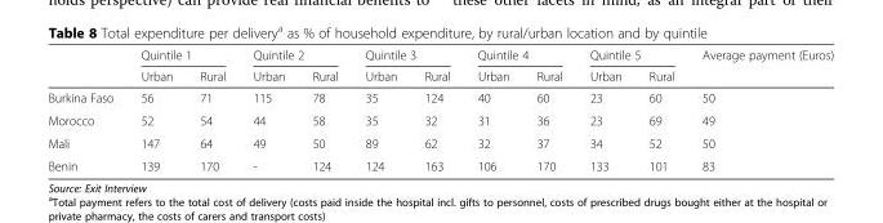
<table><thead><tr><td rowspan="2"></td><td colspan="2">Quintile 1</td><td colspan="2">Quintile 2</td><td colspan="2">Quintile 3</td><td colspan="2">Quintile 4</td><td colspan="2">Quintile 5</td><td rowspan="2">Average payment (Euros)</td></tr><tr><td>Urban</td><td>Rural</td><td>Urban</td><td>Rural</td><td>Urban</td><td>Rural</td><td>Urban</td><td>Rural</td><td>Urban</td><td>Rural</td></tr></thead><tbody><tr><td>Burkina Faso</td><td>56</td><td>71</td><td>115</td><td>78</td><td>35</td><td>124</td><td>40</td><td>60</td><td>23</td><td>60</td><td>50</td></tr><tr><td>Morocco</td><td>52</td><td>54</td><td>44</td><td>58</td><td>35</td><td>32</td><td>31</td><td>36</td><td>23</td><td>69</td><td>49</td></tr><tr><td>Mali</td><td>147</td><td>64</td><td>49</td><td>50</td><td>89</td><td>62</td><td>32</td><td>37</td><td>34</td><td>52</td><td>50</td></tr><tr><td>Benin</td><td>139</td><td>170</td><td>-</td><td>124</td><td>124</td><td>163</td><td>106</td><td>170</td><td>133</td><td>101</td><td>83</td></tr></tbody></table>